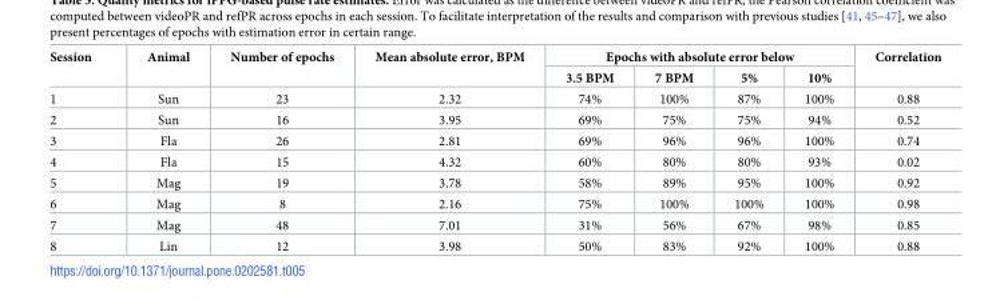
<table><thead><tr><td rowspan="2">Session</td><td rowspan="2">Animal</td><td rowspan="2">Number of epochs</td><td rowspan="2">Mean absolute error, BPM</td><td colspan="4">Epochs with absolute error below</td><td rowspan="2">Correlation</td></tr><tr><td>3.5 BPM</td><td>7 BPM</td><td>5%</td><td>10%</td></tr></thead><tbody><tr><td>1</td><td>Sun</td><td>23</td><td>2.32</td><td>74%</td><td>100%</td><td>87%</td><td>100%</td><td>0.88</td></tr><tr><td>2</td><td>Sun</td><td>16</td><td>3.95</td><td>69%</td><td>75%</td><td>75%</td><td>94%</td><td>0.52</td></tr><tr><td>3</td><td>Fla</td><td>26</td><td>2.81</td><td>69%</td><td>96%</td><td>96%</td><td>100%</td><td>0.74</td></tr><tr><td>4</td><td>Fla</td><td>15</td><td>4.32</td><td>60%</td><td>80%</td><td>80%</td><td>93%</td><td>0.02</td></tr><tr><td>5</td><td>Mag</td><td>19</td><td>3.78</td><td>58%</td><td>89%</td><td>95%</td><td>100%</td><td>0.92</td></tr><tr><td>6</td><td>Mag</td><td>8</td><td>2.16</td><td>75%</td><td>100%</td><td>100%</td><td>100%</td><td>0.98</td></tr><tr><td>7</td><td>Mag</td><td>48</td><td>7.01</td><td>31%</td><td>56%</td><td>67%</td><td>98%</td><td>0.85</td></tr><tr><td>8</td><td>Lin</td><td>12</td><td>3.98</td><td>50%</td><td>83%</td><td>92%</td><td>100%</td><td>0.88</td></tr></tbody></table>